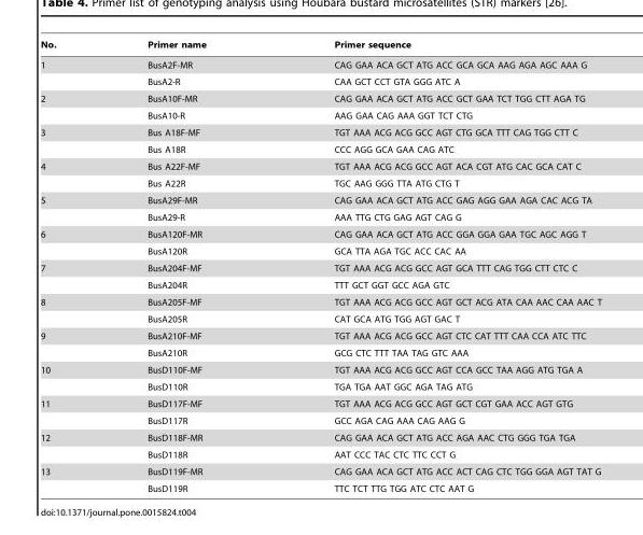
<table><thead><tr><td>No.</td><td>Primer name</td><td>Primer sequence</td></tr></thead><tbody><tr><td rowspan="2">1</td><td>BusA2F-MR</td><td>CAG GAA ACA GCT ATG ACC GCA GCA AAG AGA AGC AAA G</td></tr><tr><td>BusA2-R</td><td>CAA GCT CCT GTA GGG ATC A</td></tr><tr><td rowspan="2">2</td><td>BusA10F-MR</td><td>CAG GAA ACA GCT ATG ACC GCT GAA TCT TGG CTT AGA TG</td></tr><tr><td>BusA10-R</td><td>AAG GAA CAG AAA GGT TCT CTG</td></tr><tr><td rowspan="2">3</td><td>Bus A18F-MF</td><td>TGT AAA ACG ACG GCC AGT CTG GCA TTT CAG TGG CTT C</td></tr><tr><td>Bus A18R</td><td>CCC AGG GCA GAA CAG ATC</td></tr><tr><td rowspan="2">4</td><td>Bus A22F-MF</td><td>TGT AAA ACG ACG GCC AGT ACA CGT ATG CAC GCA CAT C</td></tr><tr><td>Bus A22R</td><td>TGC AAG GGG TTA ATG CTG T</td></tr><tr><td rowspan="2">5</td><td>BusA29F-MR</td><td>CAG GAA ACA GCT ATG ACC GAG AGG GAA AGA CAC ACG TA</td></tr><tr><td>BusA29-R</td><td>AAA TTG CTG GAG AGT CAG G</td></tr><tr><td rowspan="2">6</td><td>BusA120F-MR</td><td>CAG GAA ACA GCT ATG ACC GGA GGA GAA TGC AGC AGG T</td></tr><tr><td>BusA120R</td><td>GCA TTA AGA TGC ACC CAC AA</td></tr><tr><td rowspan="2">7</td><td>BusA204F-MF</td><td>TGT AAA ACG ACG GCC AGT GCA TTT CAG TGG CTT CTC C</td></tr><tr><td>BusA204R</td><td>TTT GCT GGT GCC AGA GTC</td></tr><tr><td rowspan="2">8</td><td>BusA205F-MF</td><td>TGT AAA ACG ACG GCC AGT GCT ACG ATA CAA AAC CAA AAC T</td></tr><tr><td>BusA205R</td><td>CAT GCA ATG TGG AGT GAC T</td></tr><tr><td rowspan="2">9</td><td>BusA210F-MF</td><td>TGT AAA ACG ACG GCC AGT CTC CAT TTT CAA CCA ATC TTC</td></tr><tr><td>BusA210R</td><td>GCG CTC TTT TAA TAG GTC AAA</td></tr><tr><td rowspan="2">10</td><td>BusD110F-MF</td><td>TGT AAA ACG ACG GCC AGT CCA GCC TAA AGG ATG TGA A</td></tr><tr><td>BusD110R</td><td>TGA TGA AAT GGC AGA TAG ATG</td></tr><tr><td rowspan="2">11</td><td>BusD117F-MF</td><td>TGT AAA ACG ACG GCC AGT GCT CGT GAA ACC AGT GTG</td></tr><tr><td>BusD117R</td><td>GCC AGA CAG AAA CAG AAG G</td></tr><tr><td rowspan="2">12</td><td>BusD118F-MR</td><td>CAG GAA ACA GCT ATG ACC AGA AAC CTG GGG TGA TGA</td></tr><tr><td>BusD118R</td><td>AAT CCC TAC CTC TTC CCT G</td></tr><tr><td rowspan="2">13</td><td>BusD119F-MR</td><td>CAG GAA ACA GCT ATG ACC ACT CAG CTC TGG GGA AGT TAT G</td></tr><tr><td>BusD119R</td><td>TTC TCT TTG TGG ATC CTC AAT G</td></tr></tbody></table>